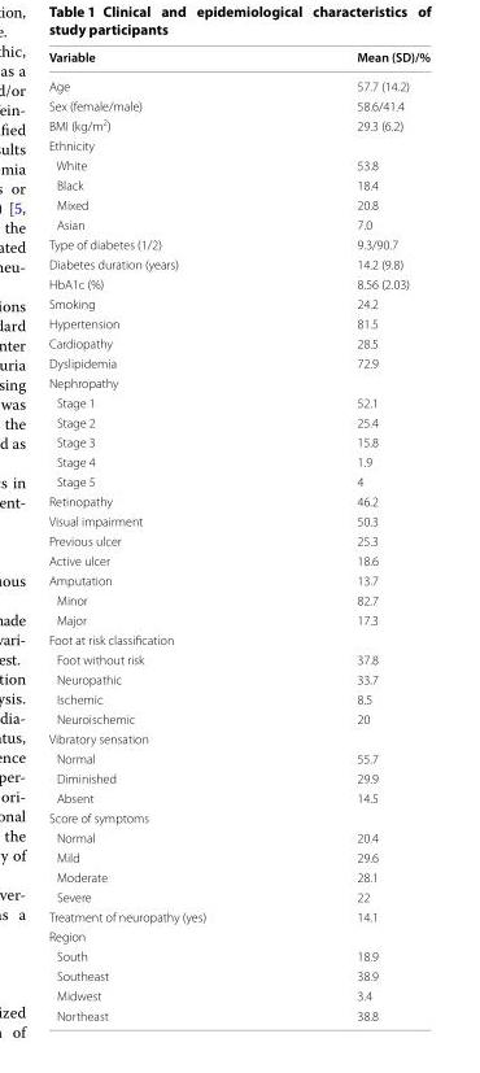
<table><thead><tr><td>Variable</td><td>Mean (SD)/%</td></tr></thead><tbody><tr><td>Age</td><td>57.7 (14.2)</td></tr><tr><td>Sex (female/male)</td><td>58.6/41.4</td></tr><tr><td>BMI (kg/m<sup>2</sup>)</td><td>29.3 (6.2)</td></tr><tr><td colspan="2">Ethnicity</td></tr><tr><td>White</td><td>53.8</td></tr><tr><td>Black</td><td>18.4</td></tr><tr><td>Mixed</td><td>20.8</td></tr><tr><td>Asian</td><td>7.0</td></tr><tr><td>Type of diabetes (1/2)</td><td>9.3/90.7</td></tr><tr><td>Diabetes duration (years)</td><td>14.2 (9.8)</td></tr><tr><td>HbA1c (%)</td><td>8.56 (2.03)</td></tr><tr><td>Smoking</td><td>24.2</td></tr><tr><td>Hypertension</td><td>81.5</td></tr><tr><td>Cardiopathy</td><td>28.5</td></tr><tr><td>Dyslipidemia</td><td>72.9</td></tr><tr><td colspan="2">Nephropathy</td></tr><tr><td>Stage 1</td><td>52.1</td></tr><tr><td>Stage 2</td><td>25.4</td></tr><tr><td>Stage 3</td><td>15.8</td></tr><tr><td>Stage 4</td><td>1.9</td></tr><tr><td>Stage 5</td><td>4</td></tr><tr><td>Retinopathy</td><td>46.2</td></tr><tr><td>Visual impairment</td><td>50.3</td></tr><tr><td>Previous ulcer</td><td>25.3</td></tr><tr><td>Active ulcer</td><td>18.6</td></tr><tr><td>Amputation</td><td>13.7</td></tr><tr><td>Minor</td><td>82.7</td></tr><tr><td>Major</td><td>17.3</td></tr><tr><td colspan="2">Foot at risk classification</td></tr><tr><td>Foot without risk</td><td>37.8</td></tr><tr><td>Neuropathic</td><td>33.7</td></tr><tr><td>Ischemic</td><td>8.5</td></tr><tr><td>Neuroischemic</td><td>20</td></tr><tr><td colspan="2">Vibratory sensation</td></tr><tr><td>Normal</td><td>55.7</td></tr><tr><td>Diminished</td><td>29.9</td></tr><tr><td>Absent</td><td>14.5</td></tr><tr><td colspan="2">Score of symptoms</td></tr><tr><td>Normal</td><td>20.4</td></tr><tr><td>Mild</td><td>29.6</td></tr><tr><td>Moderate</td><td>28.1</td></tr><tr><td>Severe</td><td>22</td></tr><tr><td>Treatment of neuropathy (yes)</td><td>14.1</td></tr><tr><td colspan="2">Region</td></tr><tr><td>South</td><td>18.9</td></tr><tr><td>Southeast</td><td>38.9</td></tr><tr><td>Midwest</td><td>3.4</td></tr><tr><td>Northeast</td><td>38.8</td></tr></tbody></table>